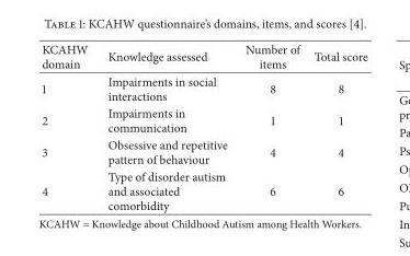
<table><thead><tr><td>KCAHW domain</td><td>Knowledge assessed</td><td>Number of items</td><td>Total score</td></tr></thead><tbody><tr><td>1</td><td>Impairments in social interactions</td><td>8</td><td>8</td></tr><tr><td>2</td><td>Impairments in communication</td><td>1</td><td>1</td></tr><tr><td>3</td><td>Obsessive and repetitive pattern of behaviour</td><td>4</td><td>4</td></tr><tr><td>4</td><td>Type of disorder autism and associated comorbidity</td><td>6</td><td>6</td></tr></tbody></table>